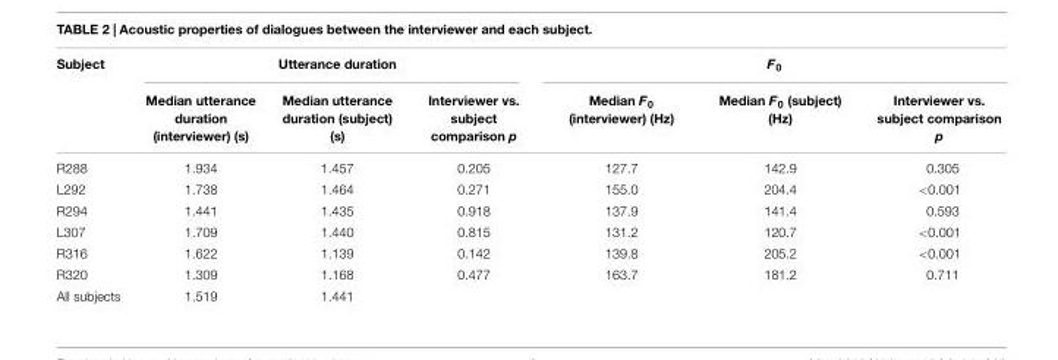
<table><thead><tr><td rowspan="2">Subject</td><td colspan="3">Utterance duration</td><td colspan="3">F<sub>0</sub></td></tr><tr><td>Median utterance duration (interviewer) (s)</td><td>Median utterance duration (subject) (s)</td><td>Interviewer vs. subject comparison p</td><td>Median F<sub>0</sub> (interviewer) (Hz)</td><td>Median F<sub>0</sub> (subject) (Hz)</td><td>Interviewer vs. subject comparison p</td></tr></thead><tbody><tr><td>R288</td><td>1.934</td><td>1.457</td><td>0.205</td><td>127.7</td><td>142.9</td><td>0.305</td></tr><tr><td>L292</td><td>1.738</td><td>1.464</td><td>0.271</td><td>155.0</td><td>204.4</td><td>&lt;0.001</td></tr><tr><td>R294</td><td>1.441</td><td>1.435</td><td>0.918</td><td>137.9</td><td>141.4</td><td>0.593</td></tr><tr><td>L307</td><td>1.709</td><td>1.440</td><td>0.815</td><td>131.2</td><td>120.7</td><td>&lt;0.001</td></tr><tr><td>R316</td><td>1.622</td><td>1.139</td><td>0.142</td><td>139.8</td><td>205.2</td><td>&lt;0.001</td></tr><tr><td>R320</td><td>1.309</td><td>1.168</td><td>0.477</td><td>163.7</td><td>181.2</td><td>0.711</td></tr><tr><td>All subjects</td><td>1.519</td><td>1.441</td><td></td><td></td><td></td><td></td></tr></tbody></table>